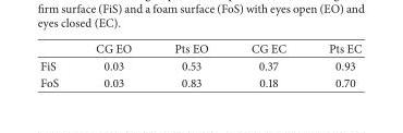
<table><thead><tr><td></td><td>CG EO</td><td>Pts EO</td><td>CG EC</td><td>Pts EC</td></tr></thead><tbody><tr><td>FiS</td><td>0.03</td><td>0.53</td><td>0.37</td><td>0.93</td></tr><tr><td>FoS</td><td>0.03</td><td>0.83</td><td>0.18</td><td>0.70</td></tr></tbody></table>